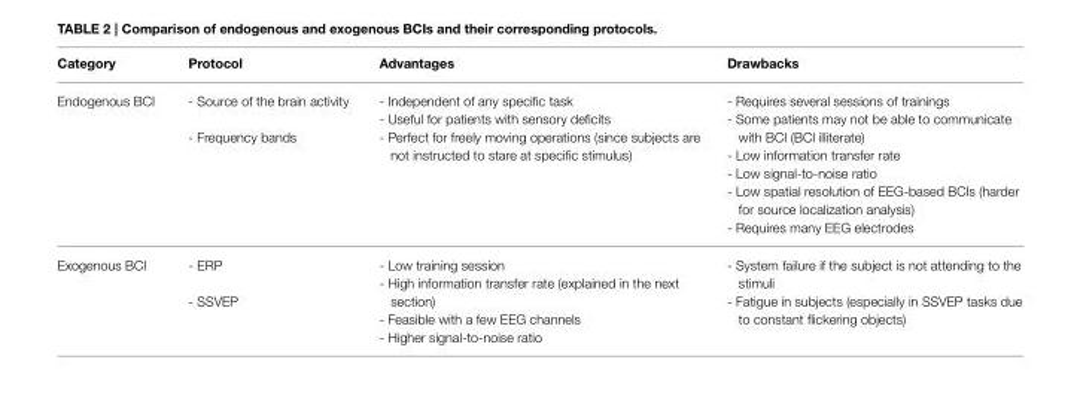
<table><thead><tr><td>Category</td><td>Protocol</td><td>Advantages</td><td>Drawbacks</td></tr></thead><tbody><tr><td>Endogenous BCI</td><td>- Source of the brain activity - Frequency bands</td><td>- Independent of any specific task - Useful for patients with sensory deficits - Perfect for freely moving operations (since subjects are not instructed to stare at specific stimulus)</td><td>- Requires several sessions of trainings - Some patients may not be able to communicate with BCI (BCI illiterate) - Low information transfer rate - Low signal-to-noise ratio - Low spatial resolution of EEG-based BCIs (harder for source localization analysis) - Requires many EEG electrodes</td></tr><tr><td>Exogenous BCI</td><td>- ERP - SSVEP</td><td>- Low training session - High information transfer rate (explained in the next section) - Feasible with a few EEG channels - Higher signal-to-noise ratio</td><td>- System failure if the subject is not attending to the stimuli - Fatigue in subjects (especially in SSVEP tasks due to constant flickering objects)</td></tr></tbody></table>